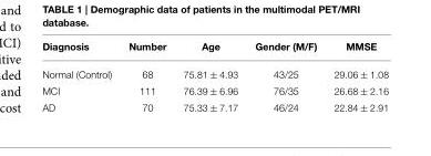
<table><thead><tr><td>Diagnosis</td><td>Number</td><td>Age</td><td>Gender (M/F)</td><td>MMSE</td></tr></thead><tbody><tr><td>Normal (Control)</td><td>68</td><td>75.81 ± 4.93</td><td>43/25</td><td>29.06 ± 1.08</td></tr><tr><td>MCI</td><td>111</td><td>76.39 ± 6.96</td><td>76/35</td><td>26.68 ± 2.16</td></tr><tr><td>AD</td><td>70</td><td>75.33 ± 7.17</td><td>46/24</td><td>22.84 ± 2.91</td></tr></tbody></table>